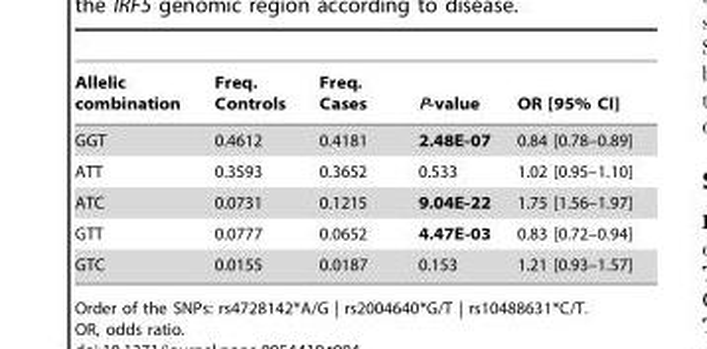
<table><thead><tr><td>Allelic combination</td><td>Freq. Controls</td><td>Freq. Cases</td><td>P-value</td><td>OR [95% CI]</td></tr></thead><tbody><tr><td>GGT</td><td>0.4612</td><td>0.4181</td><td>2.48E-07</td><td>0.84 [0.78–0.89]</td></tr><tr><td>ATT</td><td>0.3593</td><td>0.3652</td><td>0.533</td><td>1.02 [0.95–1.10]</td></tr><tr><td>ATC</td><td>0.0731</td><td>0.1215</td><td>9.04E-22</td><td>1.75 [1.56–1.97]</td></tr><tr><td>GTT</td><td>0.0777</td><td>0.0652</td><td>4.47E-03</td><td>0.83 [0.72–0.94]</td></tr><tr><td>GTC</td><td>0.0155</td><td>0.0187</td><td>0.153</td><td>1.21 [0.93–1.57]</td></tr></tbody></table>